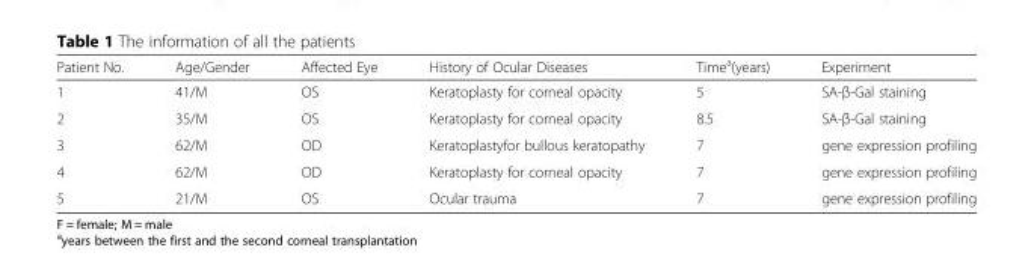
<table><thead><tr><td>Patient No.</td><td>Age/Gender</td><td>Affected Eye</td><td>History of Ocular Diseases</td><td>Time<sup>a</sup>(years)</td><td>Experiment</td></tr></thead><tbody><tr><td>1</td><td>41/M</td><td>OS</td><td>Keratoplasty for corneal opacity</td><td>5</td><td>SA-β-Gal staining</td></tr><tr><td>2</td><td>35/M</td><td>OS</td><td>Keratoplasty for corneal opacity</td><td>8.5</td><td>SA-β-Gal staining</td></tr><tr><td>3</td><td>62/M</td><td>OD</td><td>Keratoplastyfor bullous keratopathy</td><td>7</td><td>gene expression profiling</td></tr><tr><td>4</td><td>62/M</td><td>OD</td><td>Keratoplasty for corneal opacity</td><td>7</td><td>gene expression profiling</td></tr><tr><td>5</td><td>21/M</td><td>OS</td><td>Ocular trauma</td><td>7</td><td>gene expression profiling</td></tr></tbody></table>